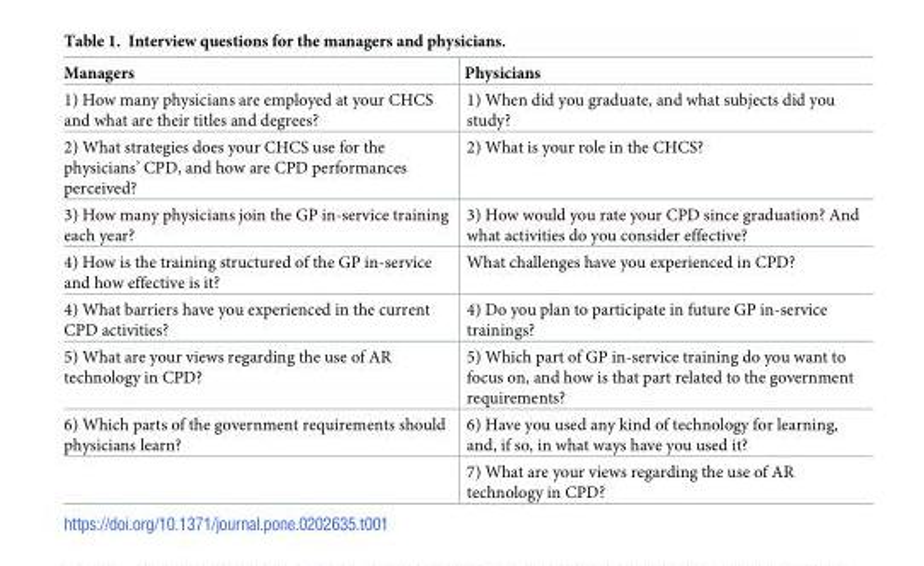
<table><thead><tr><td>Managers</td><td>Physicians</td></tr></thead><tbody><tr><td>1) How many physicians are employed at your CHCS and what are their titles and degrees?</td><td>1) When did you graduate, and what subjects did you study?</td></tr><tr><td>2) What strategies does your CHCS use for the physicians’ CPD, and how are CPD performances perceived?</td><td>2) What is your role in the CHCS?</td></tr><tr><td>3) How many physicians join the GP in-service training each year?</td><td>3) How would you rate your CPD since graduation? And what activities do you consider effective?</td></tr><tr><td>4) How is the training structured of the GP in-service and how effective is it?</td><td>What challenges have you experienced in CPD?</td></tr><tr><td>4) What barriers have you experienced in the current CPD activities?</td><td>4) Do you plan to participate in future GP in-service trainings?</td></tr><tr><td>5) What are your views regarding the use of AR technology in CPD?</td><td>5) Which part of GP in-service training do you want to focus on, and how is that part related to the government requirements?</td></tr><tr><td rowspan="2">6) Which parts of the government requirements should physicians learn?</td><td>6) Have you used any kind of technology for learning, and, if so, in what ways have you used it?</td></tr><tr><td>7) What are your views regarding the use of AR technology in CPD?</td></tr></tbody></table>